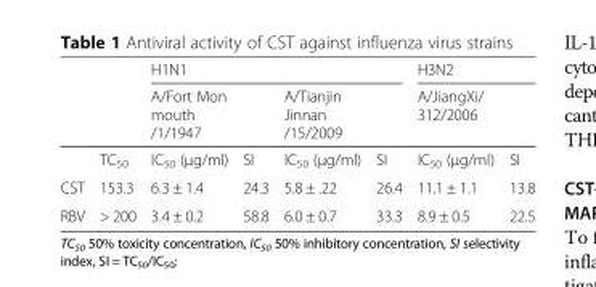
<table><thead><tr><td rowspan="3"></td><td rowspan="3">TC<sub>50</sub></td><td colspan="4">H1N1</td><td rowspan="2" colspan="2">H3N2 A/JiangXi/ 312/2006</td></tr><tr><td colspan="2">A/Fort Mon mouth /1/1947</td><td colspan="2">A/Tianjin Jinnan /15/2009</td></tr><tr><td>IC<sub>50</sub> (μg/ml)</td><td>SI</td><td>IC<sub>50</sub> (μg/ml)</td><td>SI</td><td>IC<sub>50</sub> (μg/ml)</td><td>SI</td></tr></thead><tbody><tr><td>CST</td><td>153.3</td><td>6.3 ± 1.4</td><td>24.3</td><td>5.8 ± .22</td><td>26.4</td><td>11.1 ± 1.1</td><td>13.8</td></tr><tr><td>RBV</td><td>&gt; 200</td><td>3.4 ± 0.2</td><td>58.8</td><td>6.0 ± 0.7</td><td>33.3</td><td>8.9 ± 0.5</td><td>22.5</td></tr></tbody></table>